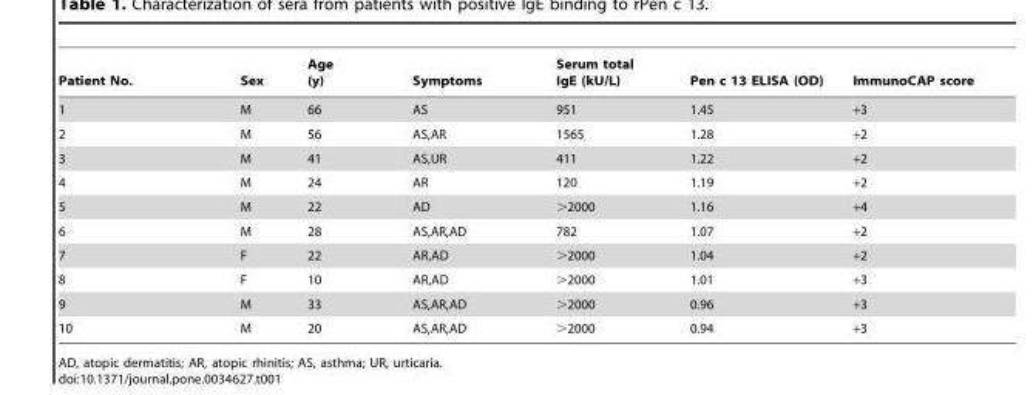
<table><thead><tr><td>Patient No.</td><td>Sex</td><td>Age (y)</td><td>Symptoms</td><td>Serum total IgE (kU/L)</td><td>Pen c 13 ELISA (OD)</td><td>ImmunoCAP score</td></tr></thead><tbody><tr><td>1</td><td>M</td><td>66</td><td>AS</td><td>951</td><td>1.45</td><td>+3</td></tr><tr><td>2</td><td>M</td><td>56</td><td>AS,AR</td><td>1565</td><td>1.28</td><td>+2</td></tr><tr><td>3</td><td>M</td><td>41</td><td>AS,UR</td><td>411</td><td>1.22</td><td>+2</td></tr><tr><td>4</td><td>M</td><td>24</td><td>AR</td><td>120</td><td>1.19</td><td>+2</td></tr><tr><td>5</td><td>M</td><td>22</td><td>AD</td><td>&gt;2000</td><td>1.16</td><td>+4</td></tr><tr><td>6</td><td>M</td><td>28</td><td>AS,AR,AD</td><td>782</td><td>1.07</td><td>+2</td></tr><tr><td>7</td><td>F</td><td>22</td><td>AR,AD</td><td>&gt;2000</td><td>1.04</td><td>+2</td></tr><tr><td>8</td><td>F</td><td>10</td><td>AR,AD</td><td>&gt;2000</td><td>1.01</td><td>+3</td></tr><tr><td>9</td><td>M</td><td>33</td><td>AS,AR,AD</td><td>&gt;2000</td><td>0.96</td><td>+3</td></tr><tr><td>10</td><td>M</td><td>20</td><td>AS,AR,AD</td><td>&gt;2000</td><td>0.94</td><td>+3</td></tr></tbody></table>